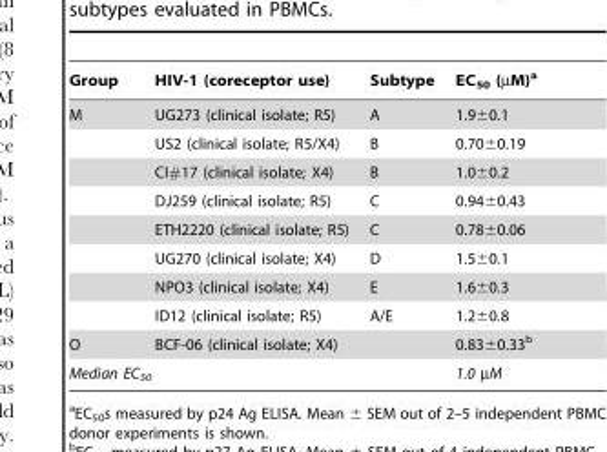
<table><thead><tr><td>Group</td><td>HIV-1 (coreceptor use)</td><td>Subtype</td><td>EC<sub>50</sub> (µM)<sup>a</sup></td></tr></thead><tbody><tr><td rowspan="8">M</td><td>UG273 (clinical isolate; R5)</td><td>A</td><td>1.9±0.1</td></tr><tr><td>US2 (clinical isolate; R5/X4)</td><td>B</td><td>0.70±0.19</td></tr><tr><td>CI#17 (clinical isolate; X4)</td><td>B</td><td>1.0±0.2</td></tr><tr><td>DJ259 (clinical isolate; R5)</td><td>C</td><td>0.94±0.43</td></tr><tr><td>ETH2220 (clinical isolate; R5)</td><td>C</td><td>0.78±0.06</td></tr><tr><td>UG270 (clinical isolate; X4)</td><td>D</td><td>1.5±0.1</td></tr><tr><td>NPO3 (clinical isolate; X4)</td><td>E</td><td>1.6±0.3</td></tr><tr><td>ID12 (clinical isolate; R5)</td><td>A/E</td><td>1.2±0.8</td></tr><tr><td>O</td><td>BCF-06 (clinical isolate; X4)</td><td></td><td>0.83±0.33<sup>b</sup></td></tr><tr><td colspan="3">Median EC<sub>50</sub></td><td>1.0 µM</td></tr></tbody></table>